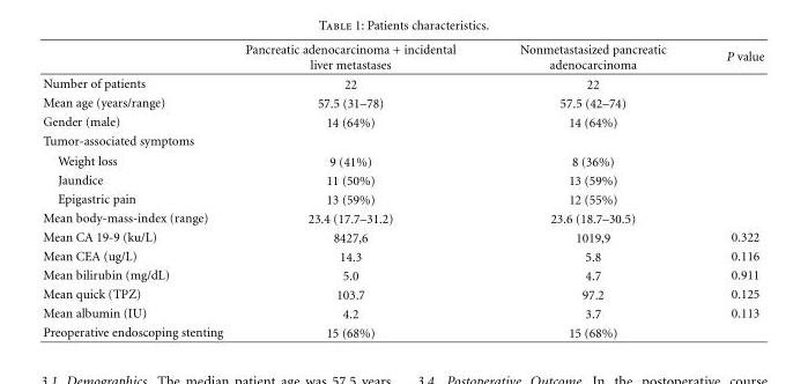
<table><thead><tr><td></td><td>Pancreatic adenocarcinoma + incidental liver metastases</td><td>Nonmetastasized pancreatic adenocarcinoma</td><td>P value</td></tr></thead><tbody><tr><td>Number of patients</td><td>22</td><td>22</td><td></td></tr><tr><td>Mean age (years/range)</td><td>57.5 (31–78)</td><td>57.5 (42–74)</td><td></td></tr><tr><td>Gender (male)</td><td>14 (64%)</td><td>14 (64%)</td><td></td></tr><tr><td colspan="4">Tumor-associated symptoms</td></tr><tr><td>Weight loss</td><td>9 (41%)</td><td>8 (36%)</td><td></td></tr><tr><td>Jaundice</td><td>11 (50%)</td><td>13 (59%)</td><td></td></tr><tr><td>Epigastric pain</td><td>13 (59%)</td><td>12 (55%)</td><td></td></tr><tr><td>Mean body-mass-index (range)</td><td>23.4 (17.7–31.2)</td><td>23.6 (18.7–30.5)</td><td></td></tr><tr><td>Mean CA 19-9 (ku/L)</td><td>8427,6</td><td>1019,9</td><td>0.322</td></tr><tr><td>Mean CEA (ug/L)</td><td>14.3</td><td>5.8</td><td>0.116</td></tr><tr><td>Mean bilirubin (mg/dL)</td><td>5.0</td><td>4.7</td><td>0.911</td></tr><tr><td>Mean quick (TPZ)</td><td>103.7</td><td>97.2</td><td>0.125</td></tr><tr><td>Mean albumin (IU)</td><td>4.2</td><td>3.7</td><td>0.113</td></tr><tr><td>Preoperative endoscoping stenting</td><td>15 (68%)</td><td>15 (68%)</td><td></td></tr></tbody></table>